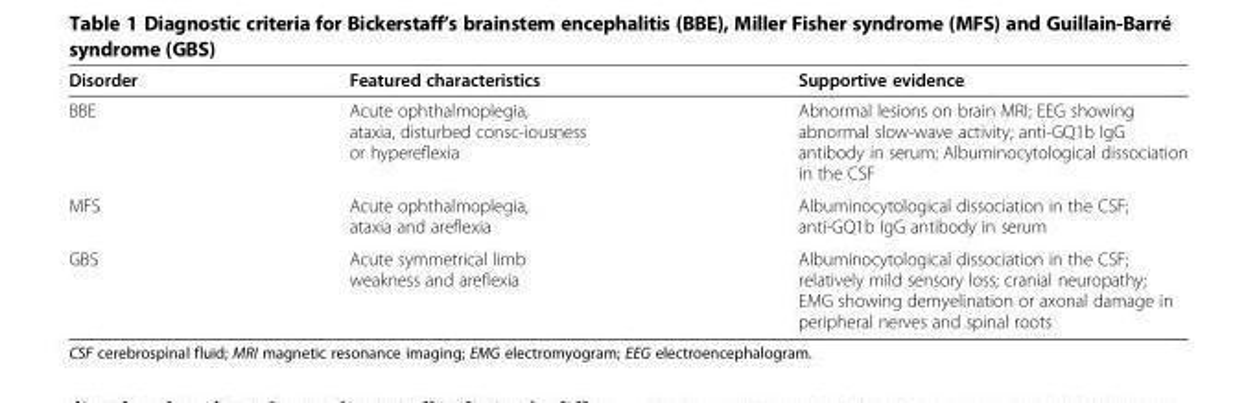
<table><thead><tr><td>Disorder</td><td>Featured characteristics</td><td>Supportive evidence</td></tr></thead><tbody><tr><td>BBE</td><td>Acute ophthalmoplegia, ataxia, disturbed consc-iousness or hypereflexia</td><td>Abnormal lesions on brain MRI; EEG showing abnormal slow-wave activity; anti-GQ1b IgG antibody in serum; Albuminocytological dissociation in the CSF</td></tr><tr><td>MFS</td><td>Acute ophthalmoplegia, ataxia and areflexia</td><td>Albuminocytological dissociation in the CSF; anti-GQ1b IgG antibody in serum</td></tr><tr><td>GBS</td><td>Acute symmetrical limb weakness and areflexia</td><td>Albuminocytological dissociation in the CSF; relatively mild sensory loss; cranial neuropathy; EMG showing demyelination or axonal damage in peripheral nerves and spinal roots</td></tr></tbody></table>